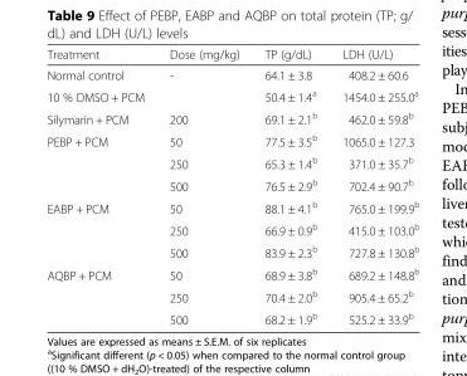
<table><thead><tr><td>Treatment</td><td>Dose (mg/kg)</td><td>TP (g/dL)</td><td>LDH (U/L)</td></tr></thead><tbody><tr><td>Normal control</td><td>-</td><td>64.1 ± 3.8</td><td>408.2 ± 60.6</td></tr><tr><td>10 % DMSO + PCM</td><td></td><td>50.4 ± 1.4<sup>a</sup></td><td>1454.0 ± 255.0<sup>a</sup></td></tr><tr><td>Silymarin + PCM</td><td>200</td><td>69.1 ± 2.1<sup>b</sup></td><td>462.0 ± 59.8<sup>b</sup></td></tr><tr><td rowspan="3">PEBP + PCM</td><td>50</td><td>77.5 ± 3.5<sup>b</sup></td><td>1065.0 ± 127.3</td></tr><tr><td>250</td><td>65.3 ± 1.4<sup>b</sup></td><td>371.0 ± 35.7<sup>b</sup></td></tr><tr><td>500</td><td>76.5 ± 2.9<sup>b</sup></td><td>702.4 ± 90.7<sup>b</sup></td></tr><tr><td rowspan="3">EABP + PCM</td><td>50</td><td>88.1 ± 4.1<sup>b</sup></td><td>765.0 ± 199.9<sup>b</sup></td></tr><tr><td>250</td><td>66.9 ± 0.9<sup>b</sup></td><td>415.0 ± 103.0<sup>b</sup></td></tr><tr><td>500</td><td>83.9 ± 2.3<sup>b</sup></td><td>727.8 ± 130.8<sup>b</sup></td></tr><tr><td rowspan="3">AQBP + PCM</td><td>50</td><td>68.9 ± 3.8<sup>b</sup></td><td>689.2 ± 148.8<sup>b</sup></td></tr><tr><td>250</td><td>70.4 ± 2.0<sup>b</sup></td><td>905.4 ± 65.2<sup>b</sup></td></tr><tr><td>500</td><td>68.2 ± 1.9<sup>b</sup></td><td>525.2 ± 33.9<sup>b</sup></td></tr></tbody></table>